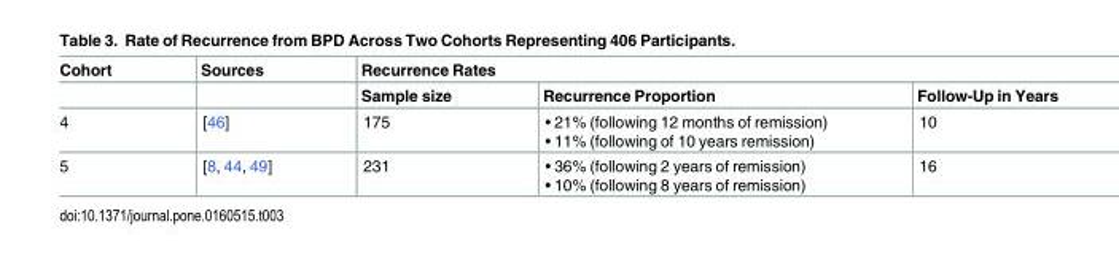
<table><thead><tr><td rowspan="2">Cohort</td><td rowspan="2">Sources</td><td colspan="3">Recurrence Rates</td></tr><tr><td>Sample size</td><td>Recurrence Proportion</td><td>Follow-Up in Years</td></tr></thead><tbody><tr><td>4</td><td>[46]</td><td>175</td><td>• 21% (following 12 months of remission) • 11% (following of 10 years remission)</td><td>10</td></tr><tr><td>5</td><td>[8, 44, 49]</td><td>231</td><td>• 36% (following 2 years of remission) • 10% (following 8 years of remission)</td><td>16</td></tr></tbody></table>